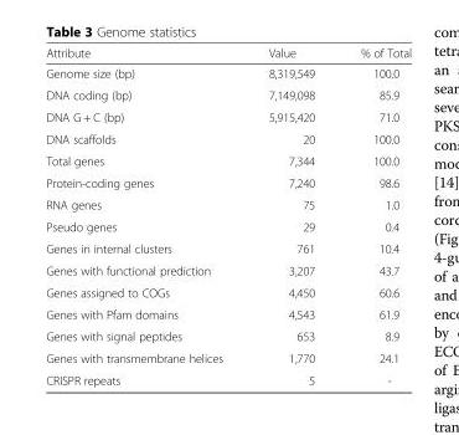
<table><thead><tr><td>Attribute</td><td>Value</td><td>% of Total</td></tr></thead><tbody><tr><td>Genome size (bp)</td><td>8,319,549</td><td>100.0</td></tr><tr><td>DNA coding (bp)</td><td>7,149,098</td><td>85.9</td></tr><tr><td>DNA G + C (bp)</td><td>5,915,420</td><td>71.0</td></tr><tr><td>DNA scaffolds</td><td>20</td><td>100.0</td></tr><tr><td>Total genes</td><td>7,344</td><td>100.0</td></tr><tr><td>Protein-coding genes</td><td>7,240</td><td>98.6</td></tr><tr><td>RNA genes</td><td>75</td><td>1.0</td></tr><tr><td>Pseudo genes</td><td>29</td><td>0.4</td></tr><tr><td>Genes in internal clusters</td><td>761</td><td>10.4</td></tr><tr><td>Genes with functional prediction</td><td>3,207</td><td>43.7</td></tr><tr><td>Genes assigned to COGs</td><td>4,450</td><td>60.6</td></tr><tr><td>Genes with Pfam domains</td><td>4,543</td><td>61.9</td></tr><tr><td>Genes with signal peptides</td><td>653</td><td>8.9</td></tr><tr><td>Genes with transmembrane helices</td><td>1,770</td><td>24.1</td></tr><tr><td>CRISPR repeats</td><td>5</td><td>-</td></tr></tbody></table>